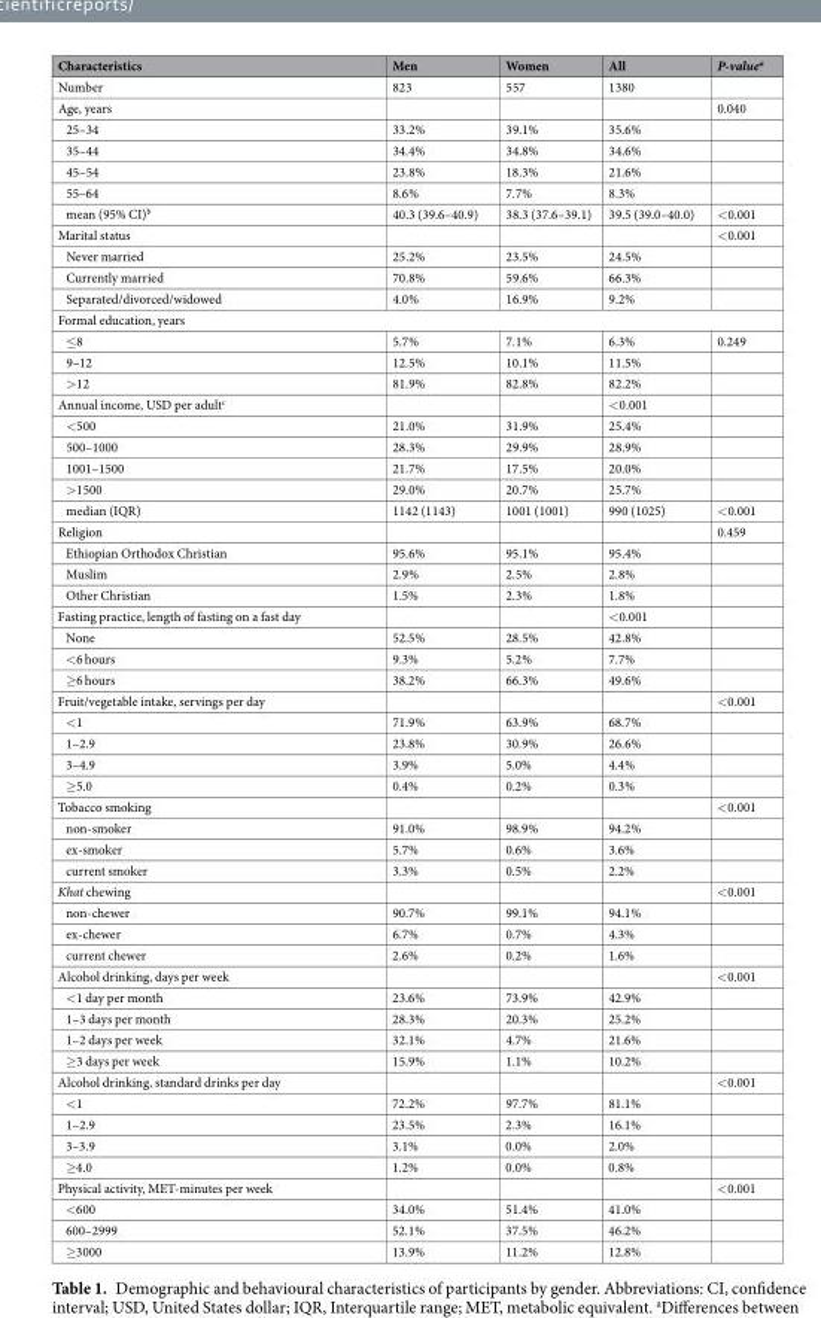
<table><thead><tr><td>Characteristics</td><td>Men</td><td>Women</td><td>All</td><td>P-value<sup>a</sup></td></tr></thead><tbody><tr><td>Number</td><td>823</td><td>557</td><td>1380</td><td></td></tr><tr><td>Age, years</td><td></td><td></td><td></td><td>0.040</td></tr><tr><td>25–34</td><td>33.2%</td><td>39.1%</td><td>35.6%</td><td></td></tr><tr><td>35–44</td><td>34.4%</td><td>34.8%</td><td>34.6%</td><td></td></tr><tr><td>45–54</td><td>23.8%</td><td>18.3%</td><td>21.6%</td><td></td></tr><tr><td>55–64</td><td>8.6%</td><td>7.7%</td><td>8.3%</td><td></td></tr><tr><td>mean (95% CI)<sup>b</sup></td><td>40.3 (39.6–40.9)</td><td>38.3 (37.6–39.1)</td><td>39.5 (39.0–40.0)</td><td>&lt;0.001</td></tr><tr><td>Marital status</td><td></td><td></td><td></td><td>&lt;0.001</td></tr><tr><td>Never married</td><td>25.2%</td><td>23.5%</td><td>24.5%</td><td></td></tr><tr><td>Currently married</td><td>70.8%</td><td>59.6%</td><td>66.3%</td><td></td></tr><tr><td>Separated/divorced/widowed</td><td>4.0%</td><td>16.9%</td><td>9.2%</td><td></td></tr><tr><td colspan="5">Formal education, years</td></tr><tr><td>≤8</td><td>5.7%</td><td>7.1%</td><td>6.3%</td><td>0.249</td></tr><tr><td>9–12</td><td>12.5%</td><td>10.1%</td><td>11.5%</td><td></td></tr><tr><td>&gt;12</td><td>81.9%</td><td>82.8%</td><td>82.2%</td><td></td></tr><tr><td>Annual income, USD per adult<sup>c</sup></td><td></td><td></td><td>&lt;0.001</td><td></td></tr><tr><td>&lt;500</td><td>21.0%</td><td>31.9%</td><td>25.4%</td><td></td></tr><tr><td>500–1000</td><td>28.3%</td><td>29.9%</td><td>28.9%</td><td></td></tr><tr><td>1001–1500</td><td>21.7%</td><td>17.5%</td><td>20.0%</td><td></td></tr><tr><td>&gt;1500</td><td>29.0%</td><td>20.7%</td><td>25.7%</td><td></td></tr><tr><td>median (IQR)</td><td>1142 (1143)</td><td>1001 (1001)</td><td>990 (1025)</td><td>&lt;0.001</td></tr><tr><td>Religion</td><td></td><td></td><td></td><td>0.459</td></tr><tr><td>Ethiopian Orthodox Christian</td><td>95.6%</td><td>95.1%</td><td>95.4%</td><td></td></tr><tr><td>Muslim</td><td>2.9%</td><td>2.5%</td><td>2.8%</td><td></td></tr><tr><td>Other Christian</td><td>1.5%</td><td>2.3%</td><td>1.8%</td><td></td></tr><tr><td>Fasting practice, length of fasting on a fast day</td><td></td><td></td><td>&lt;0.001</td><td></td></tr><tr><td>None</td><td>52.5%</td><td>28.5%</td><td>42.8%</td><td></td></tr><tr><td>&lt;6 hours</td><td>9.3%</td><td>5.2%</td><td>7.7%</td><td></td></tr><tr><td>≥6 hours</td><td>38.2%</td><td>66.3%</td><td>49.6%</td><td></td></tr><tr><td>Fruit/vegetable intake, servings per day</td><td></td><td></td><td></td><td>&lt;0.001</td></tr><tr><td>&lt;1</td><td>71.9%</td><td>63.9%</td><td>68.7%</td><td></td></tr><tr><td>1–2.9</td><td>23.8%</td><td>30.9%</td><td>26.6%</td><td></td></tr><tr><td>3–4.9</td><td>3.9%</td><td>5.0%</td><td>4.4%</td><td></td></tr><tr><td>≥5.0</td><td>0.4%</td><td>0.2%</td><td>0.3%</td><td></td></tr><tr><td>Tobacco smoking</td><td></td><td></td><td></td><td>&lt;0.001</td></tr><tr><td>non-smoker</td><td>91.0%</td><td>98.9%</td><td>94.2%</td><td></td></tr><tr><td>ex-smoker</td><td>5.7%</td><td>0.6%</td><td>3.6%</td><td></td></tr><tr><td>current smoker</td><td>3.3%</td><td>0.5%</td><td>2.2%</td><td></td></tr><tr><td>Khat chewing</td><td></td><td></td><td></td><td>&lt;0.001</td></tr><tr><td>non-chewer</td><td>90.7%</td><td>99.1%</td><td>94.1%</td><td></td></tr><tr><td>ex-chewer</td><td>6.7%</td><td>0.7%</td><td>4.3%</td><td></td></tr><tr><td>current chewer</td><td>2.6%</td><td>0.2%</td><td>1.6%</td><td></td></tr><tr><td>Alcohol drinking, days per week</td><td></td><td></td><td></td><td>&lt;0.001</td></tr><tr><td>&lt;1 day per month</td><td>23.6%</td><td>73.9%</td><td>42.9%</td><td></td></tr><tr><td>1–3 days per month</td><td>28.3%</td><td>20.3%</td><td>25.2%</td><td></td></tr><tr><td>1–2 days per week</td><td>32.1%</td><td>4.7%</td><td>21.6%</td><td></td></tr><tr><td>≥3 days per week</td><td>15.9%</td><td>1.1%</td><td>10.2%</td><td></td></tr><tr><td>Alcohol drinking, standard drinks per day</td><td></td><td></td><td></td><td>&lt;0.001</td></tr><tr><td>&lt;1</td><td>72.2%</td><td>97.7%</td><td>81.1%</td><td></td></tr><tr><td>1–2.9</td><td>23.5%</td><td>2.3%</td><td>16.1%</td><td></td></tr><tr><td>3–3.9</td><td>3.1%</td><td>0.0%</td><td>2.0%</td><td></td></tr><tr><td>≥4.0</td><td>1.2%</td><td>0.0%</td><td>0.8%</td><td></td></tr><tr><td>Physical activity, MET-minutes per week</td><td></td><td></td><td></td><td>&lt;0.001</td></tr><tr><td>&lt;600</td><td>34.0%</td><td>51.4%</td><td>41.0%</td><td></td></tr><tr><td>600–2999</td><td>52.1%</td><td>37.5%</td><td>46.2%</td><td></td></tr><tr><td>≥3000</td><td>13.9%</td><td>11.2%</td><td>12.8%</td><td></td></tr></tbody></table>